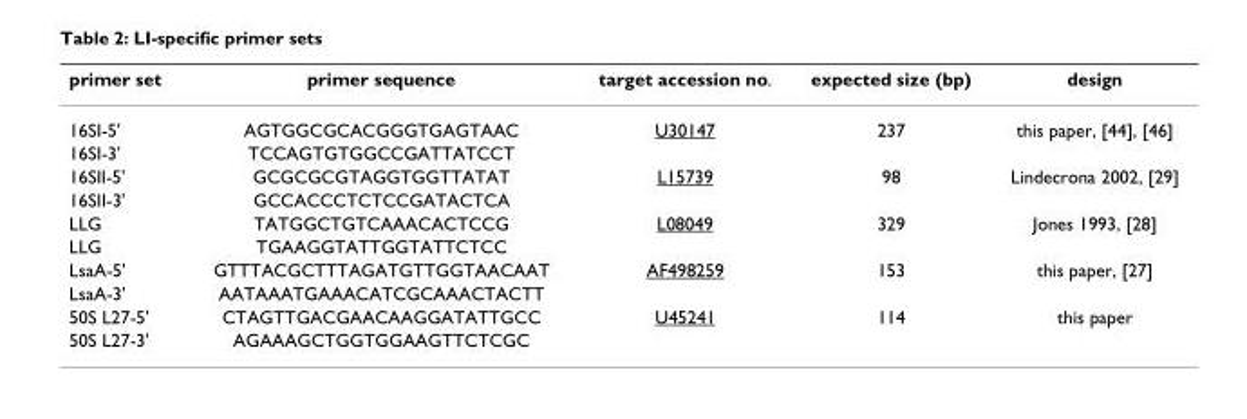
<table><thead><tr><td>primer set</td><td>primer sequence</td><td>target accession no.</td><td>expected size (bp)</td><td>design</td></tr></thead><tbody><tr><td>16SI-5&#x27;</td><td>AGTGGCGCACGGGTGAGTAAC</td><td>U30147</td><td>237</td><td>this paper, [44], [46]</td></tr><tr><td>16SI-3&#x27;</td><td>TCCAGTGTGGCCGATTATCCT</td><td></td><td></td><td></td></tr><tr><td>16SII-5&#x27;</td><td>GCGCGCGTAGGTGGTTATAT</td><td>L15739</td><td>98</td><td>Lindecrona 2002, [29]</td></tr><tr><td>16SII-3&#x27;</td><td>GCCACCCTCTCCGATACTCA</td><td></td><td></td><td></td></tr><tr><td>LLG</td><td>TATGGCTGTCAAACACTCCG</td><td>L08049</td><td>329</td><td>Jones 1993, [28]</td></tr><tr><td>LLG</td><td>TGAAGGTATTGGTATTCTCC</td><td></td><td></td><td></td></tr><tr><td>LsaA-5&#x27;</td><td>GTTTACGCTTTAGATGTTGGTAACAAT</td><td>AF498259</td><td>153</td><td>this paper, [27]</td></tr><tr><td>LsaA-3&#x27;</td><td>AATAAATGAAACATCGCAAACTACTT</td><td></td><td></td><td></td></tr><tr><td>50S L27-5&#x27;</td><td>CTAGTTGACGAACAAGGATATTGCC</td><td>U45241</td><td>114</td><td>this paper</td></tr><tr><td>50S L27-3&#x27;</td><td>AGAAAGCTGGTGGAAGTTCTCGC</td><td></td><td></td><td></td></tr></tbody></table>